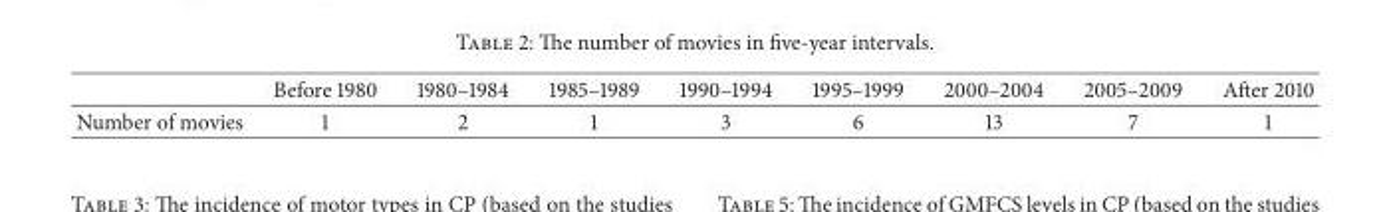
<table><thead><tr><td></td><td>Before 1980</td><td>1980–1984</td><td>1985–1989</td><td>1990–1994</td><td>1995–1999</td><td>2000–2004</td><td>2005–2009</td><td>After 2010</td></tr></thead><tbody><tr><td>Number of movies</td><td>1</td><td>2</td><td>1</td><td>3</td><td>6</td><td>13</td><td>7</td><td>1</td></tr></tbody></table>